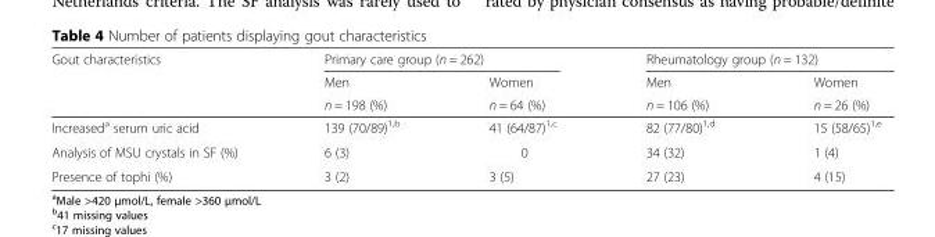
<table><thead><tr><td rowspan="3">Gout characteristics</td><td colspan="2">Primary care group (n = 262)</td><td colspan="2">Rheumatology group (n = 132)</td></tr><tr><td rowspan="2">Men n = 198 (%)</td><td rowspan="2">Women n = 64 (%)</td><td rowspan="2">Men n = 106 (%)</td><td rowspan="2">Women n = 26 (%)</td></tr><tr></tr></thead><tbody><tr><td>Increased<sup>a</sup> serum uric acid</td><td>139 (70/89)<sup>1,b</sup></td><td>41 (64/87)<sup>1,c</sup></td><td>82 (77/80)<sup>1,d</sup></td><td>15 (58/65)<sup>1,e</sup></td></tr><tr><td>Analysis of MSU crystals in SF (%)</td><td>6 (3)</td><td>0</td><td>34 (32)</td><td>1 (4)</td></tr><tr><td>Presence of tophi (%)</td><td>3 (2)</td><td>3 (5)</td><td>27 (23)</td><td>4 (15)</td></tr></tbody></table>